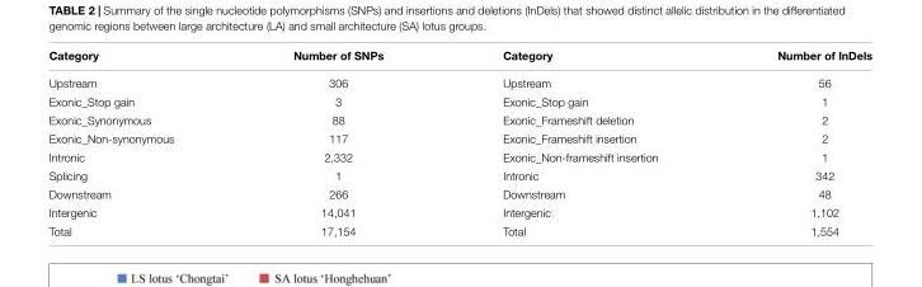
<table><thead><tr><td>Category</td><td>Number of SNPs</td><td>Category</td><td>Number of InDels</td></tr></thead><tbody><tr><td>Upstream</td><td>306</td><td>Upstream</td><td>56</td></tr><tr><td>Exonic_Stop gain</td><td>3</td><td>Exonic_Stop gain</td><td>1</td></tr><tr><td>Exonic_Synonymous</td><td>88</td><td>Exonic_Frameshift deletion</td><td>2</td></tr><tr><td>Exonic_Non-synonymous</td><td>117</td><td>Exonic_Frameshift insertion</td><td>2</td></tr><tr><td>Intronic</td><td>2,332</td><td>Exonic_Non-frameshift insertion</td><td>1</td></tr><tr><td>Splicing</td><td>1</td><td>Intronic</td><td>342</td></tr><tr><td>Downstream</td><td>266</td><td>Downstream</td><td>48</td></tr><tr><td>Intergenic</td><td>14,041</td><td>Intergenic</td><td>1,102</td></tr><tr><td>Total</td><td>17,154</td><td>Total</td><td>1,554</td></tr></tbody></table>